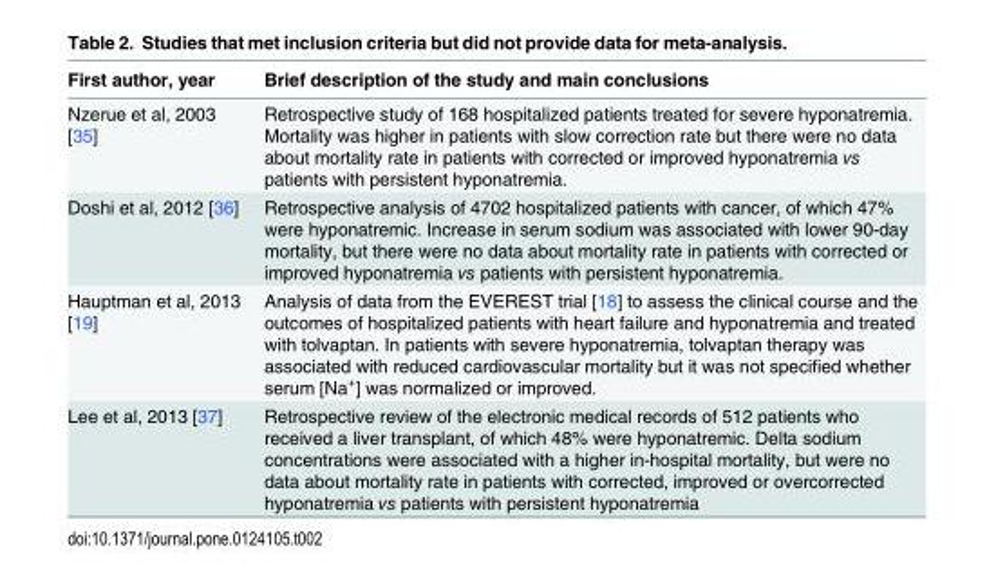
<table><thead><tr><td>First author, year</td><td>Brief description of the study and main conclusions</td></tr></thead><tbody><tr><td>Nzerue et al, 2003 [35]</td><td>Retrospective study of 168 hospitalized patients treated for severe hyponatremia. Mortality was higher in patients with slow correction rate but there were no data about mortality rate in patients with corrected or improved hyponatremia vs patients with persistent hyponatremia.</td></tr><tr><td>Doshi et al, 2012 [36]</td><td>Retrospective analysis of 4702 hospitalized patients with cancer, of which 47% were hyponatremic. Increase in serum sodium was associated with lower 90-day mortality, but there were no data about mortality rate in patients with corrected or improved hyponatremia vs patients with persistent hyponatremia.</td></tr><tr><td>Hauptman et al, 2013 [19]</td><td>Analysis of data from the EVEREST trial [18] to assess the clinical course and the outcomes of hospitalized patients with heart failure and hyponatremia and treated with tolvaptan. In patients with severe hyponatremia, tolvaptan therapy was associated with reduced cardiovascular mortality but it was not specified whether serum [Na<sup>+</sup>] was normalized or improved.</td></tr><tr><td>Lee et al, 2013 [37]</td><td>Retrospective review of the electronic medical records of 512 patients who received a liver transplant, of which 48% were hyponatremic. Delta sodium concentrations were associated with a higher in-hospital mortality, but were no data about mortality rate in patients with corrected, improved or overcorrected hyponatremia vs patients with persistent hyponatremia</td></tr></tbody></table>